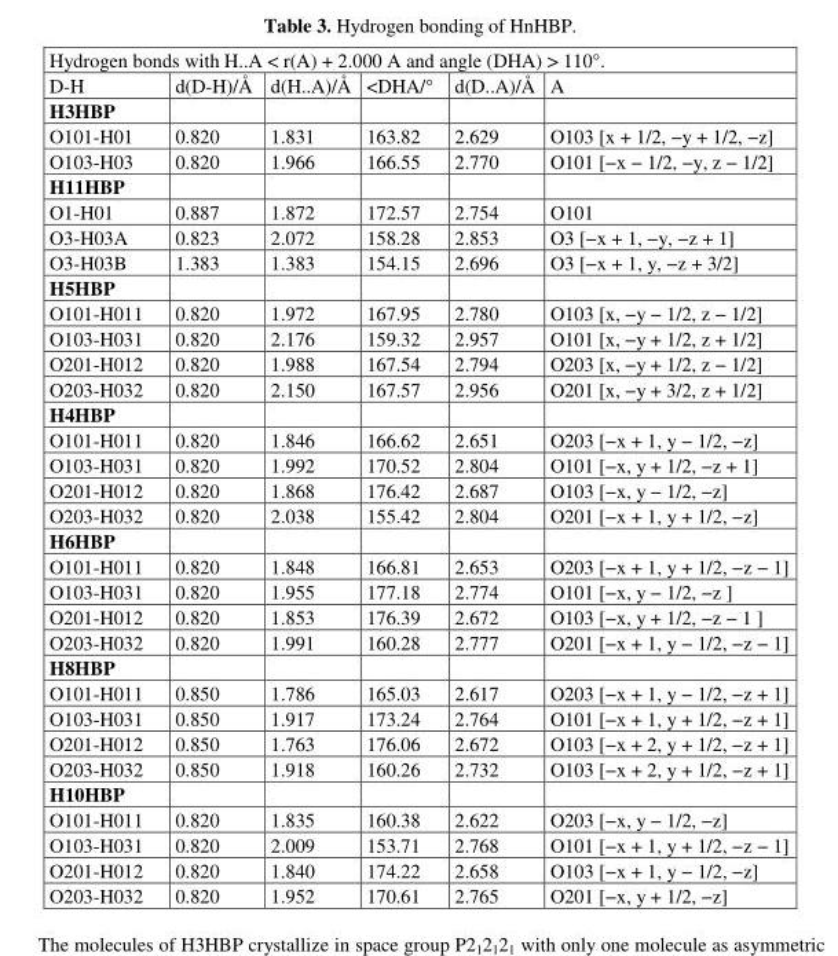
<table><thead><tr><td colspan="6">Hydrogen bonds with H..A &lt; r(A) + 2.000 A and angle (DHA) &gt; 110°.</td></tr><tr><td>D-H</td><td>d(D-H)/Å</td><td>d(H..A)/Å</td><td>&lt;DHA/°</td><td>d(D..A)/Å</td><td>A</td></tr></thead><tbody><tr><td colspan="6">H3HBP</td></tr><tr><td>O101-H01</td><td>0.820</td><td>1.831</td><td>163.82</td><td>2.629</td><td>O103 [x + 1/2, −y + 1/2, −z]</td></tr><tr><td>O103-H03</td><td>0.820</td><td>1.966</td><td>166.55</td><td>2.770</td><td>O101 [−x − 1/2, −y, z − 1/2]</td></tr><tr><td colspan="6">H11HBP</td></tr><tr><td>O1-H01</td><td>0.887</td><td>1.872</td><td>172.57</td><td>2.754</td><td>O101</td></tr><tr><td>O3-H03A</td><td>0.823</td><td>2.072</td><td>158.28</td><td>2.853</td><td>O3 [−x + 1, −y, −z + 1]</td></tr><tr><td>O3-H03B</td><td>1.383</td><td>1.383</td><td>154.15</td><td>2.696</td><td>O3 [−x + 1, y, −z + 3/2]</td></tr><tr><td colspan="6">H5HBP</td></tr><tr><td>O101-H011</td><td>0.820</td><td>1.972</td><td>167.95</td><td>2.780</td><td>O103 [x, −y − 1/2, z − 1/2]</td></tr><tr><td>O103-H031</td><td>0.820</td><td>2.176</td><td>159.32</td><td>2.957</td><td>O101 [x, −y + 1/2, z + 1/2]</td></tr><tr><td>O201-H012</td><td>0.820</td><td>1.988</td><td>167.54</td><td>2.794</td><td>O203 [x, −y + 1/2, z − 1/2]</td></tr><tr><td>O203-H032</td><td>0.820</td><td>2.150</td><td>167.57</td><td>2.956</td><td>O201 [x, −y + 3/2, z + 1/2]</td></tr><tr><td colspan="6">H4HBP</td></tr><tr><td>O101-H011</td><td>0.820</td><td>1.846</td><td>166.62</td><td>2.651</td><td>O203 [−x + 1, y − 1/2, −z]</td></tr><tr><td>O103-H031</td><td>0.820</td><td>1.992</td><td>170.52</td><td>2.804</td><td>O101 [−x, y + 1/2, −z + 1]</td></tr><tr><td>O201-H012</td><td>0.820</td><td>1.868</td><td>176.42</td><td>2.687</td><td>O103 [−x, y − 1/2, −z]</td></tr><tr><td>O203-H032</td><td>0.820</td><td>2.038</td><td>155.42</td><td>2.804</td><td>O201 [−x + 1, y + 1/2, −z]</td></tr><tr><td colspan="6">H6HBP</td></tr><tr><td>O101-H011</td><td>0.820</td><td>1.848</td><td>166.81</td><td>2.653</td><td>O203 [−x + 1, y + 1/2, −z − 1]</td></tr><tr><td>O103-H031</td><td>0.820</td><td>1.955</td><td>177.18</td><td>2.774</td><td>O101 [−x, y − 1/2, −z ]</td></tr><tr><td>O201-H012</td><td>0.820</td><td>1.853</td><td>176.39</td><td>2.672</td><td>O103 [−x, y + 1/2, −z − 1 ]</td></tr><tr><td>O203-H032</td><td>0.820</td><td>1.991</td><td>160.28</td><td>2.777</td><td>O201 [−x + 1, y − 1/2, −z − 1]</td></tr><tr><td colspan="6">H8HBP</td></tr><tr><td>O101-H011</td><td>0.850</td><td>1.786</td><td>165.03</td><td>2.617</td><td>O203 [−x + 1, y − 1/2, −z + 1]</td></tr><tr><td>O103-H031</td><td>0.850</td><td>1.917</td><td>173.24</td><td>2.764</td><td>O101 [−x + 1, y + 1/2, −z + 1]</td></tr><tr><td>O201-H012</td><td>0.850</td><td>1.763</td><td>176.06</td><td>2.672</td><td>O103 [−x + 2, y + 1/2, −z + 1]</td></tr><tr><td>O203-H032</td><td>0.850</td><td>1.918</td><td>160.26</td><td>2.732</td><td>O103 [−x + 2, y + 1/2, −z + 1]</td></tr><tr><td colspan="6">H10HBP</td></tr><tr><td>O101-H011</td><td>0.820</td><td>1.835</td><td>160.38</td><td>2.622</td><td>O203 [−x, y − 1/2, −z]</td></tr><tr><td>O103-H031</td><td>0.820</td><td>2.009</td><td>153.71</td><td>2.768</td><td>O101 [−x + 1, y + 1/2, −z − 1]</td></tr><tr><td>O201-H012</td><td>0.820</td><td>1.840</td><td>174.22</td><td>2.658</td><td>O103 [−x + 1, y − 1/2, −z]</td></tr><tr><td>O203-H032</td><td>0.820</td><td>1.952</td><td>170.61</td><td>2.765</td><td>O201 [−x, y + 1/2, −z]</td></tr></tbody></table>